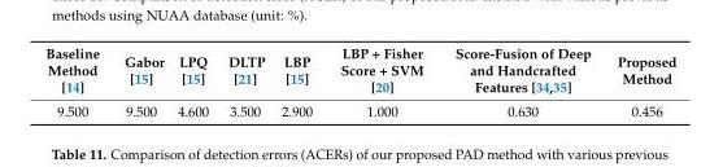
<table><thead><tr><td>Baseline Method [14]</td><td>Gabor [15]</td><td>LPQ [15]</td><td>DLTP [21]</td><td>LBP [15]</td><td>LBP + Fisher Score + SVM [20]</td><td>Score-Fusion of Deep and Handcrafted Features [34,35]</td><td>Proposed Method</td></tr></thead><tbody><tr><td>9.500</td><td>9.500</td><td>4.600</td><td>3.500</td><td>2.900</td><td>1.000</td><td>0.630</td><td>0.456</td></tr></tbody></table>